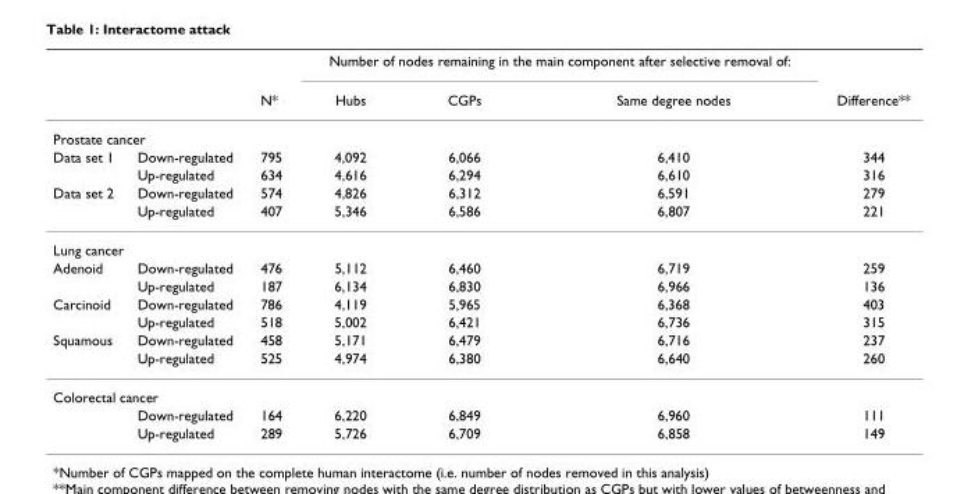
<table><thead><tr><td rowspan="2"></td><td rowspan="2"></td><td rowspan="2">N*</td><td colspan="3">Number of nodes remaining in the main component after selective removal of:</td><td rowspan="2">Difference**</td></tr><tr><td>Hubs</td><td>CGPs</td><td>Same degree nodes</td></tr></thead><tbody><tr><td colspan="7">Prostate cancer</td></tr><tr><td rowspan="2">Data set 1</td><td>Down-regulated</td><td>795</td><td>4,092</td><td>6,066</td><td>6,410</td><td>344</td></tr><tr><td>Up-regulated</td><td>634</td><td>4,616</td><td>6,294</td><td>6,610</td><td>316</td></tr><tr><td rowspan="2">Data set 2</td><td>Down-regulated</td><td>574</td><td>4,826</td><td>6,312</td><td>6,591</td><td>279</td></tr><tr><td>Up-regulated</td><td>407</td><td>5,346</td><td>6,586</td><td>6,807</td><td>221</td></tr><tr><td colspan="7">Lung cancer</td></tr><tr><td rowspan="2">Adenoid</td><td>Down-regulated</td><td>476</td><td>5,112</td><td>6,460</td><td>6,719</td><td>259</td></tr><tr><td>Up-regulated</td><td>187</td><td>6,134</td><td>6,830</td><td>6,966</td><td>136</td></tr><tr><td rowspan="2">Carcinoid</td><td>Down-regulated</td><td>786</td><td>4,119</td><td>5,965</td><td>6,368</td><td>403</td></tr><tr><td>Up-regulated</td><td>518</td><td>5,002</td><td>6,421</td><td>6,736</td><td>315</td></tr><tr><td rowspan="2">Squamous</td><td>Down-regulated</td><td>458</td><td>5,171</td><td>6,479</td><td>6,716</td><td>237</td></tr><tr><td>Up-regulated</td><td>525</td><td>4,974</td><td>6,380</td><td>6,640</td><td>260</td></tr><tr><td colspan="7">Colorectal cancer</td></tr><tr><td></td><td>Down-regulated</td><td>164</td><td>6,220</td><td>6,849</td><td>6,960</td><td>111</td></tr><tr><td></td><td>Up-regulated</td><td>289</td><td>5,726</td><td>6,709</td><td>6,858</td><td>149</td></tr></tbody></table>